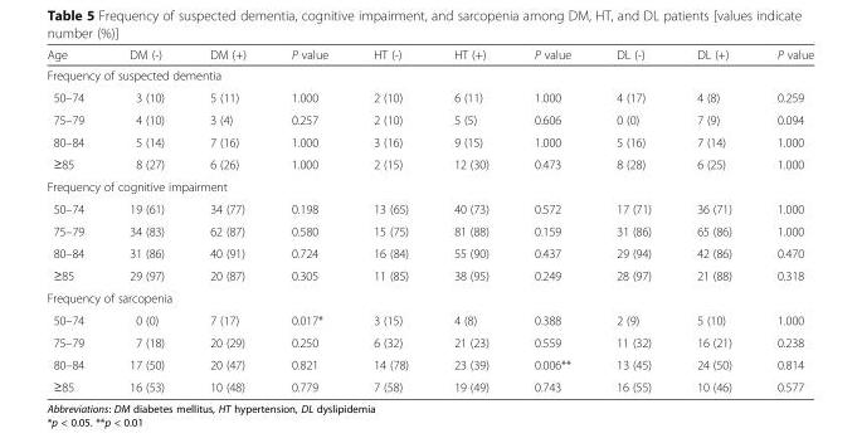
<table><thead><tr><td>Age</td><td>DM (-)</td><td>DM (+)</td><td>P value</td><td>HT (-)</td><td>HT (+)</td><td>P value</td><td>DL (-)</td><td>DL (+)</td><td>P value</td></tr></thead><tbody><tr><td colspan="10">Frequency of suspected dementia</td></tr><tr><td>50–74</td><td>3 (10)</td><td>5 (11)</td><td>1.000</td><td>2 (10)</td><td>6 (11)</td><td>1.000</td><td>4 (17)</td><td>4 (8)</td><td>0.259</td></tr><tr><td>75–79</td><td>4 (10)</td><td>3 (4)</td><td>0.257</td><td>2 (10)</td><td>5 (5)</td><td>0.606</td><td>0 (0)</td><td>7 (9)</td><td>0.094</td></tr><tr><td>80–84</td><td>5 (14)</td><td>7 (16)</td><td>1.000</td><td>3 (16)</td><td>9 (15)</td><td>1.000</td><td>5 (16)</td><td>7 (14)</td><td>1.000</td></tr><tr><td>≥85</td><td>8 (27)</td><td>6 (26)</td><td>1.000</td><td>2 (15)</td><td>12 (30)</td><td>0.473</td><td>8 (28)</td><td>6 (25)</td><td>1.000</td></tr><tr><td colspan="10">Frequency of cognitive impairment</td></tr><tr><td>50–74</td><td>19 (61)</td><td>34 (77)</td><td>0.198</td><td>13 (65)</td><td>40 (73)</td><td>0.572</td><td>17 (71)</td><td>36 (71)</td><td>1.000</td></tr><tr><td>75–79</td><td>34 (83)</td><td>62 (87)</td><td>0.580</td><td>15 (75)</td><td>81 (88)</td><td>0.159</td><td>31 (86)</td><td>65 (86)</td><td>1.000</td></tr><tr><td>80–84</td><td>31 (86)</td><td>40 (91)</td><td>0.724</td><td>16 (84)</td><td>55 (90)</td><td>0.437</td><td>29 (94)</td><td>42 (86)</td><td>0.470</td></tr><tr><td>≥85</td><td>29 (97)</td><td>20 (87)</td><td>0.305</td><td>11 (85)</td><td>38 (95)</td><td>0.249</td><td>28 (97)</td><td>21 (88)</td><td>0.318</td></tr><tr><td colspan="10">Frequency of sarcopenia</td></tr><tr><td>50–74</td><td>0 (0)</td><td>7 (17)</td><td>0.017*</td><td>3 (15)</td><td>4 (8)</td><td>0.388</td><td>2 (9)</td><td>5 (10)</td><td>1.000</td></tr><tr><td>75–79</td><td>7 (18)</td><td>20 (29)</td><td>0.250</td><td>6 (32)</td><td>21 (23)</td><td>0.559</td><td>11 (32)</td><td>16 (21)</td><td>0.238</td></tr><tr><td>80–84</td><td>17 (50)</td><td>20 (47)</td><td>0.821</td><td>14 (78)</td><td>23 (39)</td><td>0.006**</td><td>13 (45)</td><td>24 (50)</td><td>0.814</td></tr><tr><td>≥85</td><td>16 (53)</td><td>10 (48)</td><td>0.779</td><td>7 (58)</td><td>19 (49)</td><td>0.743</td><td>16 (55)</td><td>10 (46)</td><td>0.577</td></tr></tbody></table>